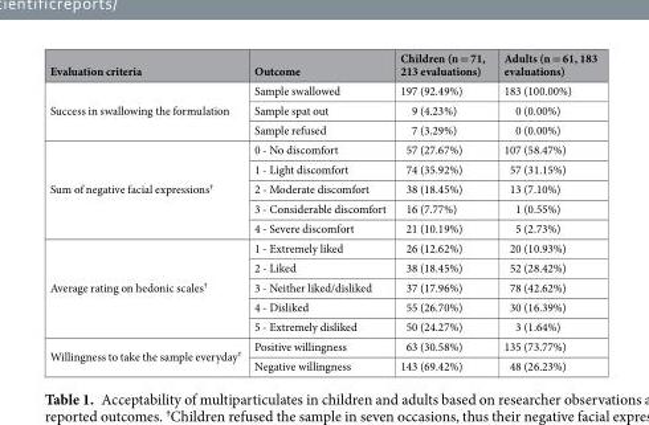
<table><thead><tr><td>Evaluation criteria</td><td>Outcome</td><td>Children (n = 71, 213 evaluations)</td><td>Adults (n = 61, 183 evaluations)</td></tr></thead><tbody><tr><td rowspan="3">Success in swallowing the formulation</td><td>Sample swallowed</td><td>197 (92.49%)</td><td>183 (100.00%)</td></tr><tr><td>Sample spat out</td><td>9 (4.23%)</td><td>0 (0.00%)</td></tr><tr><td>Sample refused</td><td>7 (3.29%)</td><td>0 (0.00%)</td></tr><tr><td rowspan="5">Sum of negative facial expressions<sup>†</sup></td><td>0 - No discomfort</td><td>57 (27.67%)</td><td>107 (58.47%)</td></tr><tr><td>1 - Light discomfort</td><td>74 (35.92%)</td><td>57 (31.15%)</td></tr><tr><td>2 - Moderate discomfort</td><td>38 (18.45%)</td><td>13 (7.10%)</td></tr><tr><td>3 - Considerable discomfort</td><td>16 (7.77%)</td><td>1 (0.55%)</td></tr><tr><td>4 - Severe discomfort</td><td>21 (10.19%)</td><td>5 (2.73%)</td></tr><tr><td rowspan="5">Average rating on hedonic scales<sup>†</sup></td><td>1 - Extremely liked</td><td>26 (12.62%)</td><td>20 (10.93%)</td></tr><tr><td>2 - Liked</td><td>38 (18.45%)</td><td>52 (28.42%)</td></tr><tr><td>3 - Neither liked/disliked</td><td>37 (17.96%)</td><td>78 (42.62%)</td></tr><tr><td>4 - Disliked</td><td>55 (26.70%)</td><td>30 (16.39%)</td></tr><tr><td>5 - Extremely disliked</td><td>50 (24.27%)</td><td>3 (1.64%)</td></tr><tr><td rowspan="2">Willingness to take the sample everyday<sup>†</sup></td><td>Positive willingness</td><td>63 (30.58%)</td><td>135 (73.77%)</td></tr><tr><td>Negative willingness</td><td>143 (69.42%)</td><td>48 (26.23%)</td></tr></tbody></table>